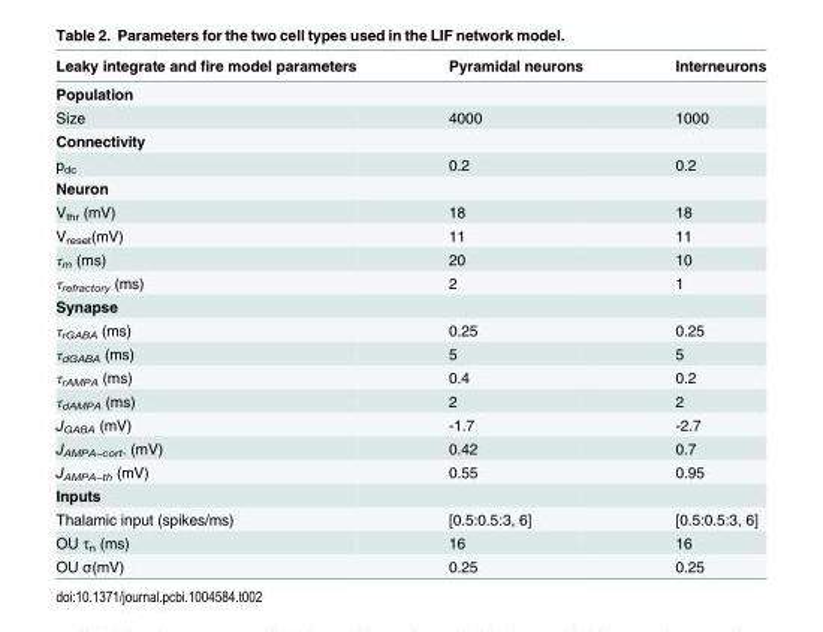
<table><thead><tr><td>Leaky integrate and fire model parameters</td><td>Pyramidal neurons</td><td>Interneurons</td></tr></thead><tbody><tr><td colspan="3">Population</td></tr><tr><td>Size</td><td>4000</td><td>1000</td></tr><tr><td colspan="3">Connectivity</td></tr><tr><td>p<sub>dc</sub></td><td>0.2</td><td>0.2</td></tr><tr><td colspan="3">Neuron</td></tr><tr><td>V<sub>thr</sub> (mV)</td><td>18</td><td>18</td></tr><tr><td>V<sub>reset</sub>(mV)</td><td>11</td><td>11</td></tr><tr><td>τ<sub>m</sub> (ms)</td><td>20</td><td>10</td></tr><tr><td>τ<sub>refractory</sub> (ms)</td><td>2</td><td>1</td></tr><tr><td colspan="3">Synapse</td></tr><tr><td>τ<sub>rGABA</sub> (ms)</td><td>0.25</td><td>0.25</td></tr><tr><td>τ<sub>dGABA</sub> (ms)</td><td>5</td><td>5</td></tr><tr><td>τ<sub>rAMPA</sub> (ms)</td><td>0.4</td><td>0.2</td></tr><tr><td>τ<sub>dAMPA</sub> (ms)</td><td>2</td><td>2</td></tr><tr><td>J<sub>GABA</sub> (mV)</td><td>-1.7</td><td>-2.7</td></tr><tr><td>J<sub>AMPA−cort</sub>. (mV)</td><td>0.42</td><td>0.7</td></tr><tr><td>J<sub>AMPA−th</sub> (mV)</td><td>0.55</td><td>0.95</td></tr><tr><td colspan="3">Inputs</td></tr><tr><td>Thalamic input (spikes/ms)</td><td>[0.5:0.5:3, 6]</td><td>[0.5:0.5:3, 6]</td></tr><tr><td>OU τ<sub>n</sub> (ms)</td><td>16</td><td>16</td></tr><tr><td>OU σ(mV)</td><td>0.25</td><td>0.25</td></tr></tbody></table>